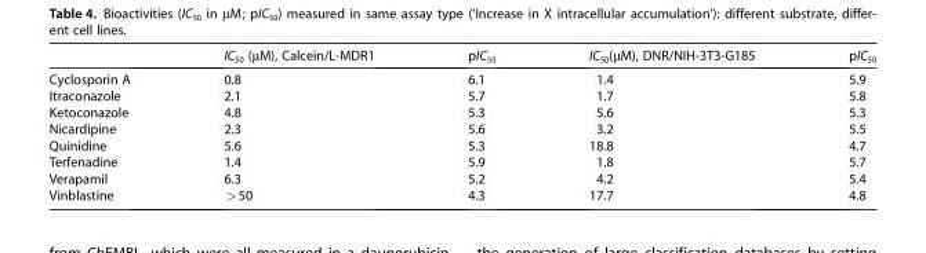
<table><thead><tr><td></td><td>IC<sub>50</sub> (µM), Calcein/L-MDR1</td><td>pIC<sub>50</sub></td><td>IC<sub>50</sub>(µM), DNR/NIH-3T3-G185</td><td>pIC<sub>50</sub></td></tr></thead><tbody><tr><td>Cyclosporin A</td><td>0.8</td><td>6.1</td><td>1.4</td><td>5.9</td></tr><tr><td>Itraconazole</td><td>2.1</td><td>5.7</td><td>1.7</td><td>5.8</td></tr><tr><td>Ketoconazole</td><td>4.8</td><td>5.3</td><td>5.6</td><td>5.3</td></tr><tr><td>Nicardipine</td><td>2.3</td><td>5.6</td><td>3.2</td><td>5.5</td></tr><tr><td>Quinidine</td><td>5.6</td><td>5.3</td><td>18.8</td><td>4.7</td></tr><tr><td>Terfenadine</td><td>1.4</td><td>5.9</td><td>1.8</td><td>5.7</td></tr><tr><td>Verapamil</td><td>6.3</td><td>5.2</td><td>4.2</td><td>5.4</td></tr><tr><td>Vinblastine</td><td>&gt;50</td><td>4.3</td><td>17.7</td><td>4.8</td></tr></tbody></table>